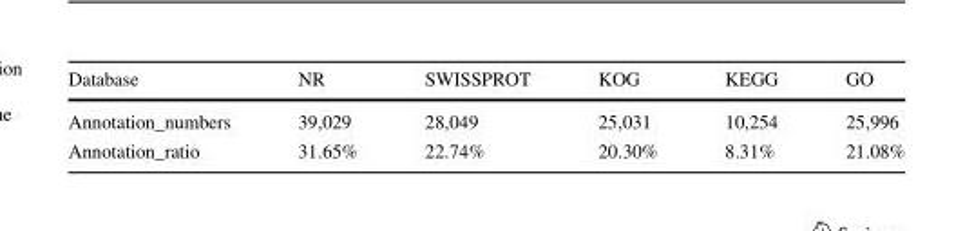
<table><thead><tr><td>Database</td><td>NR</td><td>SWISSPROT</td><td>KOG</td><td>KEGG</td><td>GO</td></tr></thead><tbody><tr><td>Annotation_numbers</td><td>39,029</td><td>28,049</td><td>25,031</td><td>10,254</td><td>25,996</td></tr><tr><td>Annotation_ratio</td><td>31.65%</td><td>22.74%</td><td>20.30%</td><td>8.31%</td><td>21.08%</td></tr></tbody></table>